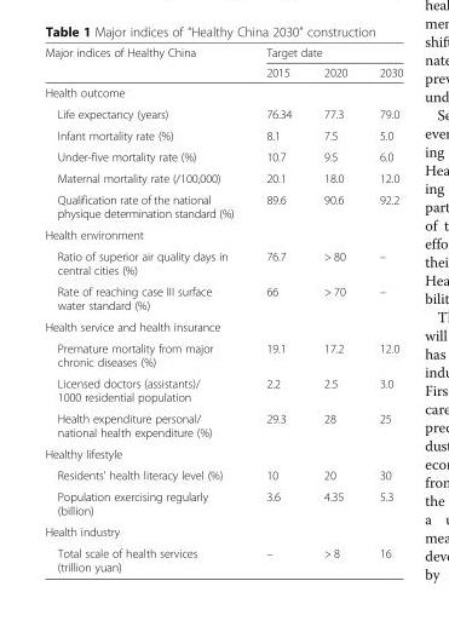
<table><thead><tr><td rowspan="2">Major indices of Healthy China</td><td colspan="3">Target date</td></tr><tr><td>2015</td><td>2020</td><td>2030</td></tr></thead><tbody><tr><td colspan="4">Health outcome</td></tr><tr><td>Life expectancy (years)</td><td>76.34</td><td>77.3</td><td>79.0</td></tr><tr><td>Infant mortality rate (%)</td><td>8.1</td><td>7.5</td><td>5.0</td></tr><tr><td>Under-five mortality rate (%)</td><td>10.7</td><td>9.5</td><td>6.0</td></tr><tr><td>Maternal mortality rate (/100,000)</td><td>20.1</td><td>18.0</td><td>12.0</td></tr><tr><td>Qualification rate of the national physique determination standard (%)</td><td>89.6</td><td>90.6</td><td>92.2</td></tr><tr><td colspan="4">Health environment</td></tr><tr><td>Ratio of superior air quality days in central cities (%)</td><td>76.7</td><td>&gt; 80</td><td>–</td></tr><tr><td>Rate of reaching case III surface water standard (%)</td><td>66</td><td>&gt; 70</td><td>–</td></tr><tr><td colspan="4">Health service and health insurance</td></tr><tr><td>Premature mortality from major chronic diseases (%)</td><td>19.1</td><td>17.2</td><td>12.0</td></tr><tr><td>Licensed doctors (assistants)/ 1000 residential population</td><td>2.2</td><td>2.5</td><td>3.0</td></tr><tr><td>Health expenditure personal/ national health expenditure (%)</td><td>29.3</td><td>28</td><td>25</td></tr><tr><td colspan="4">Healthy lifestyle</td></tr><tr><td>Residents&#x27; health literacy level (%)</td><td>10</td><td>20</td><td>30</td></tr><tr><td>Population exercising regularly (billion)</td><td>3.6</td><td>4.35</td><td>5.3</td></tr><tr><td colspan="4">Health industry</td></tr><tr><td>Total scale of health services (trillion yuan)</td><td>–</td><td>&gt; 8</td><td>16</td></tr></tbody></table>